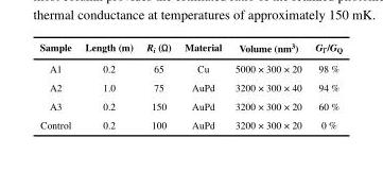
<table><thead><tr><td>Sample</td><td>Length (m)</td><td>R<sub>i</sub> (Ω)</td><td>Material</td><td>Volume (nm<sup>3</sup>)</td><td>G<sub>Γ</sub>/G<sub>Q</sub></td></tr></thead><tbody><tr><td>A1</td><td>0.2</td><td>65</td><td>Cu</td><td>5000 × 300 × 20</td><td>98 %</td></tr><tr><td>A2</td><td>1.0</td><td>75</td><td>AuPd</td><td>3200 × 300 × 40</td><td>94 %</td></tr><tr><td>A3</td><td>0.2</td><td>150</td><td>AuPd</td><td>3200 × 300 × 20</td><td>60 %</td></tr><tr><td>Control</td><td>0.2</td><td>100</td><td>AuPd</td><td>3200 × 300 × 20</td><td>0 %</td></tr></tbody></table>